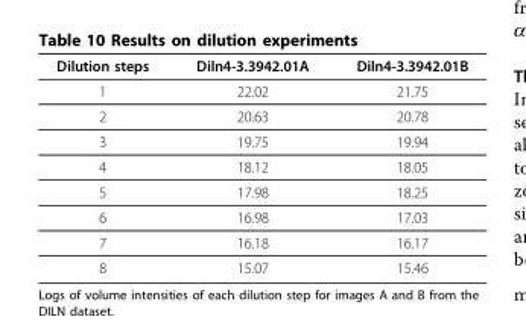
<table><thead><tr><td>Dilution steps</td><td>Diln4-3.3942.01A</td><td>Diln4-3.3942.01B</td></tr></thead><tbody><tr><td>1</td><td>22.02</td><td>21.75</td></tr><tr><td>2</td><td>20.63</td><td>20.78</td></tr><tr><td>3</td><td>19.75</td><td>19.94</td></tr><tr><td>4</td><td>18.12</td><td>18.05</td></tr><tr><td>5</td><td>17.98</td><td>18.25</td></tr><tr><td>6</td><td>16.98</td><td>17.03</td></tr><tr><td>7</td><td>16.18</td><td>16.17</td></tr><tr><td>8</td><td>15.07</td><td>15.46</td></tr></tbody></table>